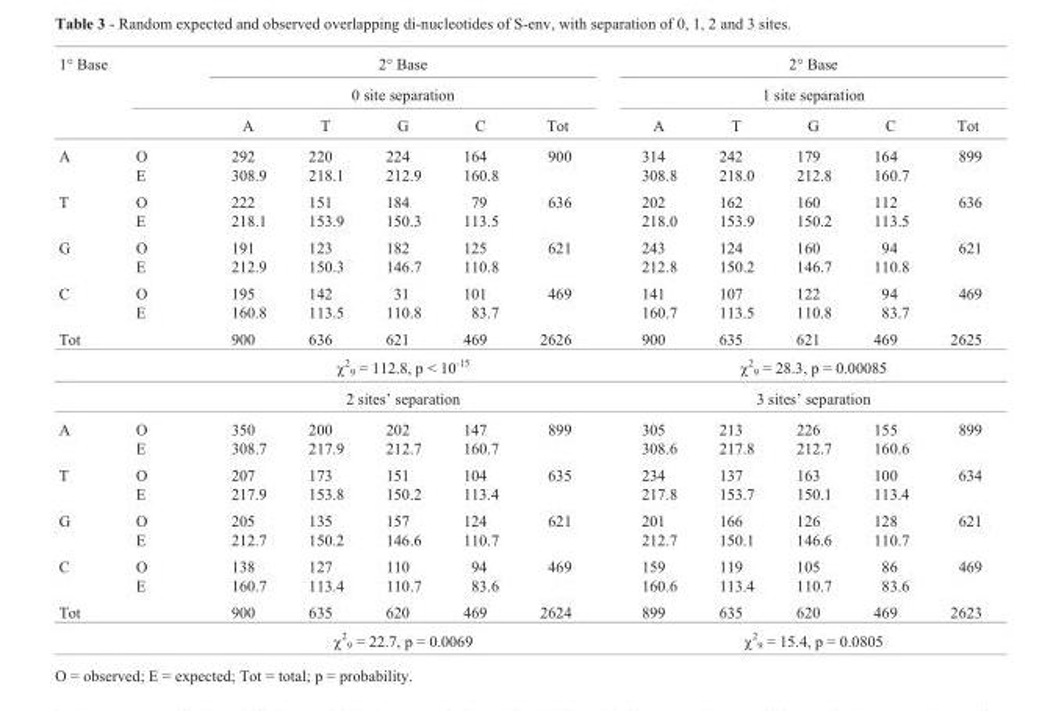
<table><thead><tr><td rowspan="3">1° Base</td><td rowspan="3"></td><td rowspan="2" colspan="5">2° Base 0 site separation</td><td rowspan="2" colspan="5">2° Base 1 site separation</td></tr><tr></tr><tr><td>A</td><td>T</td><td>G</td><td>C</td><td>Tot</td><td>A</td><td>T</td><td>G</td><td>C</td><td>Tot</td></tr></thead><tbody><tr><td>A</td><td>O E</td><td>292 308.9</td><td>220 218.1</td><td>224 212.9</td><td>164 160.8</td><td>900</td><td>314 308.8</td><td>242 218.0</td><td>179 212.8</td><td>164 160.7</td><td>899</td></tr><tr><td>T</td><td>O E</td><td>222 218.1</td><td>151 153.9</td><td>184 150.3</td><td>79 113.5</td><td>636</td><td>202 218.0</td><td>162 153.9</td><td>160 150.2</td><td>112 113.5</td><td>636</td></tr><tr><td>G</td><td>O E</td><td>191 212.9</td><td>123 150.3</td><td>182 146.7</td><td>125 110.8</td><td>621</td><td>243 212.8</td><td>124 150.2</td><td>160 146.7</td><td>94 110.8</td><td>621</td></tr><tr><td>C</td><td>O E</td><td>195 160.8</td><td>142 113.5</td><td>31 110.8</td><td>101 83.7</td><td>469</td><td>141 160.7</td><td>107 113.5</td><td>122 110.8</td><td>94 83.7</td><td>469</td></tr><tr><td rowspan="3">Tot</td><td></td><td>900</td><td>636</td><td>621</td><td>469</td><td>2626</td><td>900</td><td>635</td><td>621</td><td>469</td><td>2625</td></tr><tr><td></td><td colspan="5">χ<sup>2</sup> <sub>9</sub> = 112.8, p &lt; 10<sup>-15</sup></td><td colspan="5">χ<sup>2</sup> <sub>9</sub> = 28.3, p = 0.00085</td></tr><tr><td></td><td colspan="5">2 sites’ separation</td><td colspan="5">3 sites’ separation</td></tr><tr><td>A</td><td>O E</td><td>350 308.7</td><td>200 217.9</td><td>202 212.7</td><td>147 160.7</td><td>899</td><td>305 308.6</td><td>213 217.8</td><td>226 212.7</td><td>155 160.6</td><td>899</td></tr><tr><td>T</td><td>O E</td><td>207 217.9</td><td>173 153.8</td><td>151 150.2</td><td>104 113.4</td><td>635</td><td>234 217.8</td><td>137 153.7</td><td>163 150.1</td><td>100 113.4</td><td>634</td></tr><tr><td>G</td><td>O E</td><td>205 212.7</td><td>135 150.2</td><td>157 146.6</td><td>124 110.7</td><td>621</td><td>201 212.7</td><td>166 150.1</td><td>126 146.6</td><td>128 110.7</td><td>621</td></tr><tr><td>C</td><td>O E</td><td>138 160.7</td><td>127 113.4</td><td>110 110.7</td><td>94 83.6</td><td>469</td><td>159 160.6</td><td>119 113.4</td><td>105 110.7</td><td>86 83.6</td><td>469</td></tr><tr><td rowspan="2">Tot</td><td></td><td>900</td><td>635</td><td>620</td><td>469</td><td>2624</td><td>899</td><td>635</td><td>620</td><td>469</td><td>2623</td></tr><tr><td></td><td colspan="5">χ<sup>2</sup> <sub>9</sub> = 22.7, p = 0.0069</td><td colspan="5">χ<sup>2</sup> <sub>9</sub> = 15.4, p = 0.0805</td></tr></tbody></table>